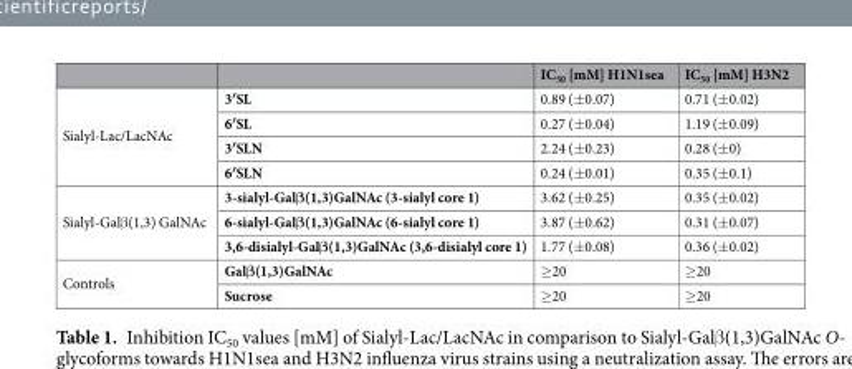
<table><thead><tr><td></td><td></td><td>IC<sub>50</sub> [mM] H1N1sea</td><td>IC<sub>50</sub> [mM] H3N2</td></tr></thead><tbody><tr><td rowspan="4">Sialyl-Lac/LacNAc</td><td>3′SL</td><td>0.89 (±0.07)</td><td>0.71 (±0.02)</td></tr><tr><td>6′SL</td><td>0.27 (±0.04)</td><td>1.19 (±0.09)</td></tr><tr><td>3′SLN</td><td>2.24 (±0.23)</td><td>0.28 (±0)</td></tr><tr><td>6′SLN</td><td>0.24 (±0.01)</td><td>0.35 (±0.1)</td></tr><tr><td rowspan="3">Sialyl-Galβ(1,3) GalNAc</td><td>3-sialyl-Galβ(1,3)GalNAc (3-sialyl core 1)</td><td>3.62 (±0.25)</td><td>0.35 (±0.02)</td></tr><tr><td>6-sialyl-Galβ(1,3)GalNAc (6-sialyl core 1)</td><td>3.87 (±0.62)</td><td>0.31 (±0.07)</td></tr><tr><td>3,6-disialyl-Galβ(1,3)GalNAc (3,6-disialyl core 1)</td><td>1.77 (±0.08)</td><td>0.36 (±0.02)</td></tr><tr><td rowspan="2">Controls</td><td>Galβ(1,3)GalNAc</td><td>≥20</td><td>≥20</td></tr><tr><td>Sucrose</td><td>≥20</td><td>≥20</td></tr></tbody></table>